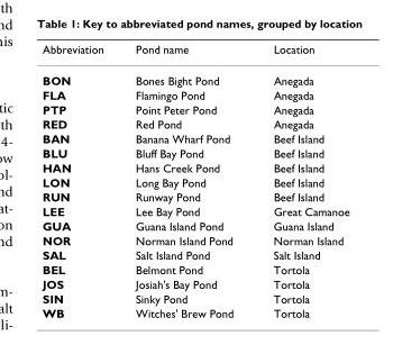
<table><thead><tr><td>Abbreviation</td><td>Pond name</td><td>Location</td></tr></thead><tbody><tr><td>BON</td><td>Bones Bight Pond</td><td>Anegada</td></tr><tr><td>FLA</td><td>Flamingo Pond</td><td>Anegada</td></tr><tr><td>PTP</td><td>Point Peter Pond</td><td>Anegada</td></tr><tr><td>RED</td><td>Red Pond</td><td>Anegada</td></tr><tr><td>BAN</td><td>Banana Wharf Pond</td><td>Beef Island</td></tr><tr><td>BLU</td><td>Bluff Bay Pond</td><td>Beef Island</td></tr><tr><td>HAN</td><td>Hans Creek Pond</td><td>Beef Island</td></tr><tr><td>LON</td><td>Long Bay Pond</td><td>Beef Island</td></tr><tr><td>RUN</td><td>Runway Pond</td><td>Beef Island</td></tr><tr><td>LEE</td><td>Lee Bay Pond</td><td>Great Camanoe</td></tr><tr><td>GUA</td><td>Guana Island Pond</td><td>Guana Island</td></tr><tr><td>NOR</td><td>Norman Island Pond</td><td>Norman Island</td></tr><tr><td>SAL</td><td>Salt Island Pond</td><td>Salt Island</td></tr><tr><td>BEL</td><td>Belmont Pond</td><td>Tortola</td></tr><tr><td>JOS</td><td>Josiah&#x27;s Bay Pond</td><td>Tortola</td></tr><tr><td>SIN</td><td>Sinky Pond</td><td>Tortola</td></tr><tr><td>WB</td><td>Witches&#x27; Brew Pond</td><td>Tortola</td></tr></tbody></table>